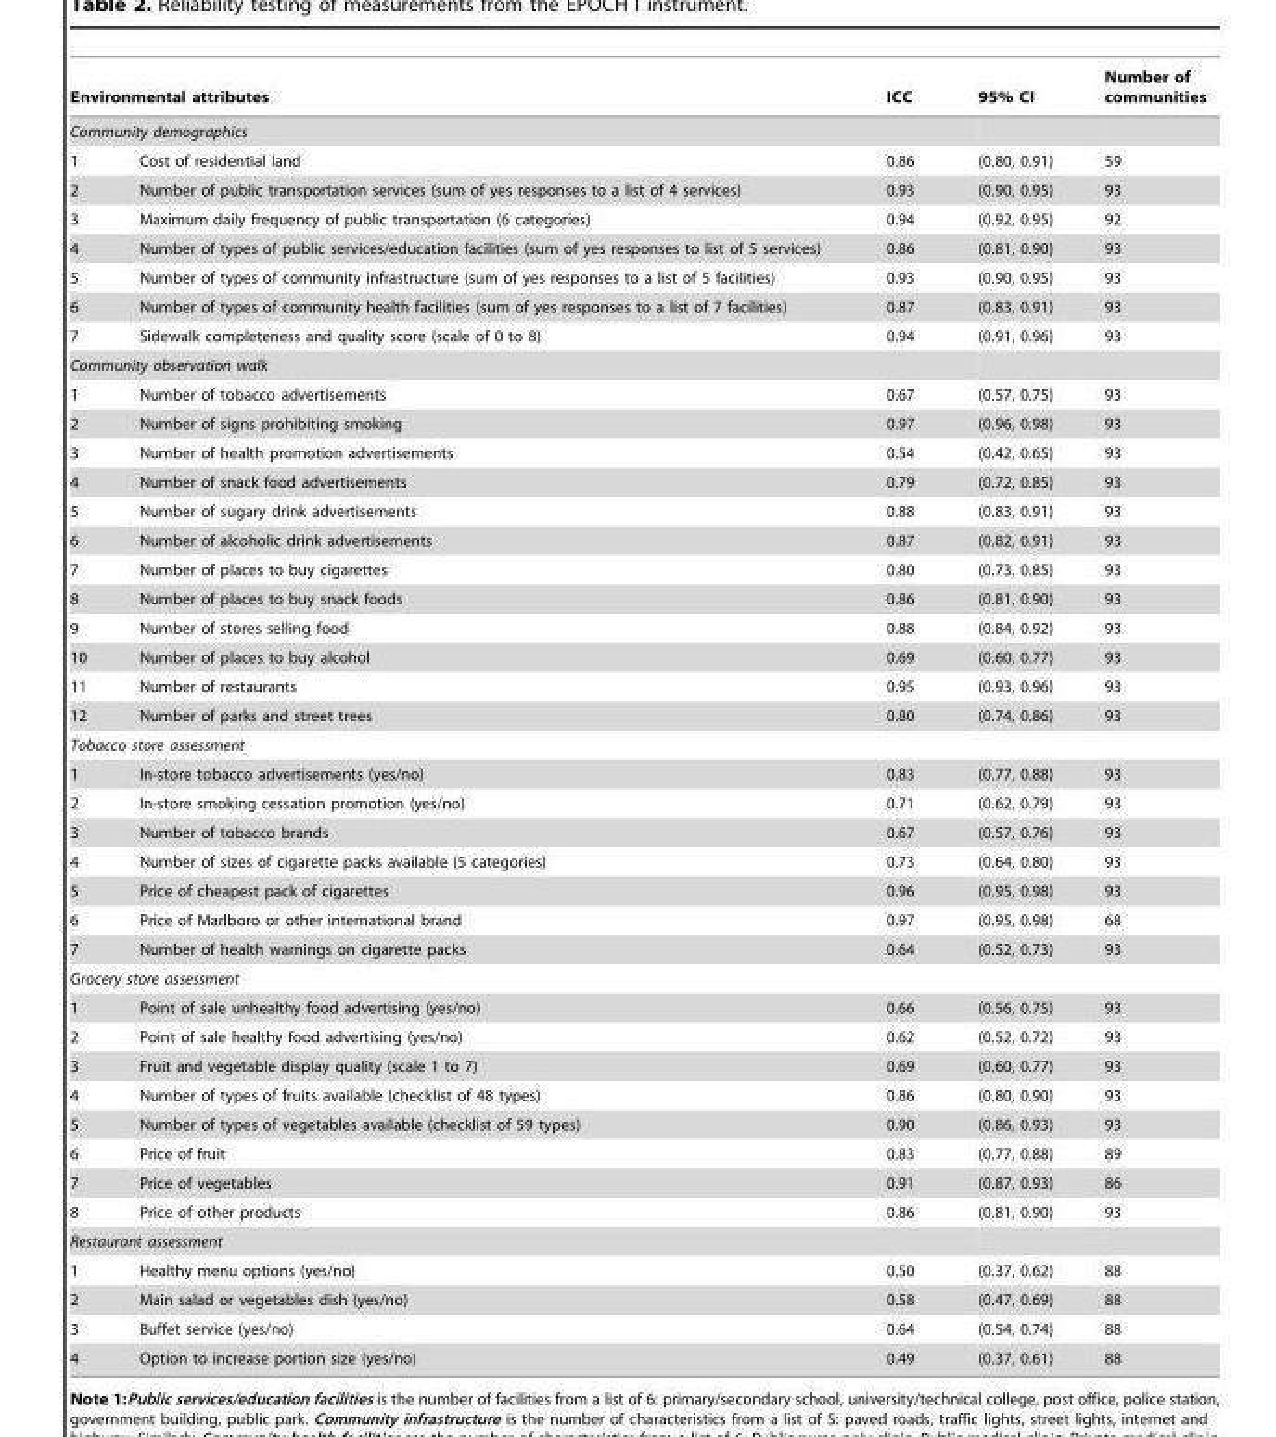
<table><thead><tr><td rowspan="2" colspan="2">Environmental attributes Community demographics</td><td rowspan="3">ICC 0.86</td><td rowspan="3">95% CI (0.80, 0.91)</td><td rowspan="3">Number of communities 59</td></tr><tr></tr><tr><td>1</td><td>Cost of residential land</td></tr></thead><tbody><tr><td>2</td><td>Number of public transportation services (sum of yes responses to a list of 4 services)</td><td>0.93</td><td>(0.90, 0.95)</td><td>93</td></tr><tr><td>3</td><td>Maximum daily frequency of public transportation (6 categories)</td><td>0.94</td><td>(0.92, 0.95)</td><td>92</td></tr><tr><td>4</td><td>Number of types of public services/education facilities (sum of yes responses to list of 5 services)</td><td>0.86</td><td>(0.81, 0.90)</td><td>93</td></tr><tr><td>5</td><td>Number of types of community infrastructure (sum of yes responses to a list of 5 facilities)</td><td>0.93</td><td>(0.90, 0.95)</td><td>93</td></tr><tr><td>6</td><td>Number of types of community health facilities (sum of yes responses to a list of 7 facilities)</td><td>0.87</td><td>(0.83, 0.91)</td><td>93</td></tr><tr><td>7</td><td>Sidewalk completeness and quality score (scale of 0 to 8)</td><td>0.94</td><td>(0.91, 0.96)</td><td>93</td></tr><tr><td colspan="5">Community observation walk</td></tr><tr><td>1</td><td>Number of tobacco advertisements</td><td>0.67</td><td>(0.57, 0.75)</td><td>93</td></tr><tr><td>2</td><td>Number of signs prohibiting smoking</td><td>0.97</td><td>(0.96, 0.98)</td><td>93</td></tr><tr><td>3</td><td>Number of health promotion advertisements</td><td>0.54</td><td>(0.42, 0.65)</td><td>93</td></tr><tr><td>4</td><td>Number of snack food advertisements</td><td>0.79</td><td>(0.72, 0.85)</td><td>93</td></tr><tr><td>5</td><td>Number of sugary drink advertisements</td><td>0.88</td><td>(0.83, 0.91)</td><td>93</td></tr><tr><td>6</td><td>Number of alcoholic drink advertisements</td><td>0.87</td><td>(0.82, 0.91)</td><td>93</td></tr><tr><td>7</td><td>Number of places to buy cigarettes</td><td>0.80</td><td>(0.73, 0.85)</td><td>93</td></tr><tr><td>8</td><td>Number of places to buy snack foods</td><td>0.86</td><td>(0.81, 0.90)</td><td>93</td></tr><tr><td>9</td><td>Number of stores selling food</td><td>0.88</td><td>(0.84, 0.92)</td><td>93</td></tr><tr><td>10</td><td>Number of places to buy alcohol</td><td>0.69</td><td>(0.60, 0.77)</td><td>93</td></tr><tr><td>11</td><td>Number of restaurants</td><td>0.95</td><td>(0.93, 0.96)</td><td>93</td></tr><tr><td>12</td><td>Number of parks and street trees</td><td>0.80</td><td>(0.74, 0.86)</td><td>93</td></tr><tr><td colspan="5">Tobacco store assessment</td></tr><tr><td>1</td><td>In-store tobacco advertisements (yes/no)</td><td>0.83</td><td>(0.77, 0.88)</td><td>93</td></tr><tr><td>2</td><td>In-store smoking cessation promotion (yes/no)</td><td>0.71</td><td>(0.62, 0.79)</td><td>93</td></tr><tr><td>3</td><td>Number of tobacco brands</td><td>0.67</td><td>(0.57, 0.76)</td><td>93</td></tr><tr><td>4</td><td>Number of sizes of cigarette packs available (5 categories)</td><td>0.73</td><td>(0.64, 0.80)</td><td>93</td></tr><tr><td>5</td><td>Price of cheapest pack of cigarettes</td><td>0.96</td><td>(0.95, 0.98)</td><td>93</td></tr><tr><td>6</td><td>Price of Marlboro or other international brand</td><td>0.97</td><td>(0.95, 0.98)</td><td>68</td></tr><tr><td>7</td><td>Number of health warnings on cigarette packs</td><td>0.64</td><td>(0.52, 0.73)</td><td>93</td></tr><tr><td colspan="5">Grocery store assessment</td></tr><tr><td>1</td><td>Point of sale unhealthy food advertising (yes/no)</td><td>0.66</td><td>(0.56, 0.75)</td><td>93</td></tr><tr><td>2</td><td>Point of sale healthy food advertising (yes/no)</td><td>0.62</td><td>(0.52, 0.72)</td><td>93</td></tr><tr><td>3</td><td>Fruit and vegetable display quality (scale 1 to 7)</td><td>0.69</td><td>(0.60, 0.77)</td><td>93</td></tr><tr><td>4</td><td>Number of types of fruits available (checklist of 48 types)</td><td>0.86</td><td>(0.80, 0.90)</td><td>93</td></tr><tr><td>5</td><td>Number of types of vegetables available (checklist of 59 types)</td><td>0.90</td><td>(0.86, 0.93)</td><td>93</td></tr><tr><td>6</td><td>Price of fruit</td><td>0.83</td><td>(0.77, 0.88)</td><td>89</td></tr><tr><td>7</td><td>Price of vegetables</td><td>0.91</td><td>(0.87, 0.93)</td><td>86</td></tr><tr><td>8</td><td>Price of other products</td><td>0.86</td><td>(0.81, 0.90)</td><td>93</td></tr><tr><td colspan="5">Restaurant assessment</td></tr><tr><td>1</td><td>Healthy menu options (yes/no)</td><td>0.50</td><td>(0.37, 0.62)</td><td>88</td></tr><tr><td>2</td><td>Main salad or vegetables dish (yes/no)</td><td>0.58</td><td>(0.47, 0.69)</td><td>88</td></tr><tr><td>3</td><td>Buffet service (yes/no)</td><td>0.64</td><td>(0.54, 0.74)</td><td>88</td></tr><tr><td>4</td><td>Option to increase portion size (yes/no)</td><td>0.49</td><td>(0.37, 0.61)</td><td>88</td></tr></tbody></table>